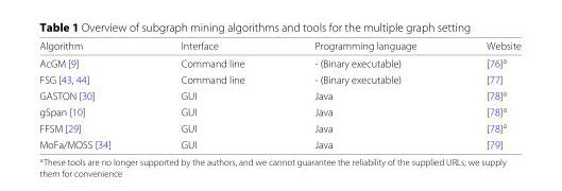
<table><thead><tr><td>Algorithm</td><td>Interface</td><td>Programming language</td><td>Website</td></tr></thead><tbody><tr><td>AcGM [9]</td><td>Command line</td><td>- (Binary executable)</td><td>[76]<sup>a</sup></td></tr><tr><td>FSG [43, 44]</td><td>Command line</td><td>- (Binary executable)</td><td>[77]</td></tr><tr><td>GASTON [30]</td><td>GUI</td><td>Java</td><td>[78]<sup>a</sup></td></tr><tr><td>gSpan [10]</td><td>GUI</td><td>Java</td><td>[78]<sup>a</sup></td></tr><tr><td>FFSM [29]</td><td>GUI</td><td>Java</td><td>[78]<sup>a</sup></td></tr><tr><td>MoFa/MOSS [34]</td><td>GUI</td><td>Java</td><td>[79]</td></tr></tbody></table>